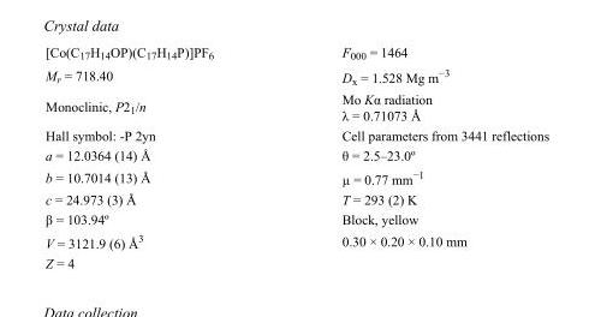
<table><tbody><tr><td>[Co(C<sub>17</sub>H<sub>14</sub>OP)(C<sub>17</sub>H<sub>14</sub>P)]PF<sub>6</sub></td><td>F000 = 1464</td></tr><tr><td>M<sub>r</sub> = 718.40</td><td>D<sub>x</sub> = 1.528 Mg m<sup>−3</sup></td></tr><tr><td>Monoclinic, P2<sub>1</sub>/n</td><td>Mo Kα radiation λ = 0.71073 Å</td></tr><tr><td>Hall symbol: -P 2yn</td><td>Cell parameters from 3441 reflections</td></tr><tr><td>a = 12.0364 (14) Å</td><td>θ = 2.5–23.0º</td></tr><tr><td>b = 10.7014 (13) Å</td><td>µ = 0.77 mm<sup>−1</sup></td></tr><tr><td>c = 24.973 (3) Å</td><td>T = 293 (2) K</td></tr><tr><td>β = 103.94º</td><td>Block, yellow</td></tr><tr><td>V = 3121.9 (6) Å<sup>3</sup></td><td>0.30 × 0.20 × 0.10 mm</td></tr><tr><td>Z = 4</td><td></td></tr></tbody></table>